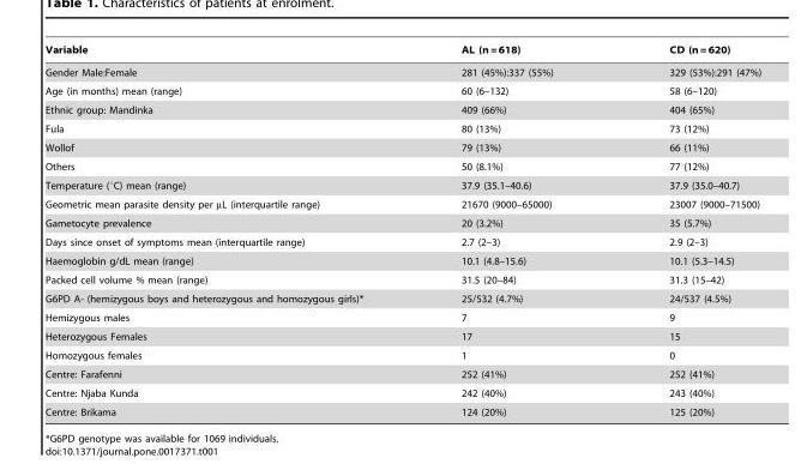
<table><thead><tr><td>Variable</td><td>AL (n = 618)</td><td>CD (n = 620)</td></tr></thead><tbody><tr><td>Gender Male:Female</td><td>281 (45%):337 (55%)</td><td>329 (53%):291 (47%)</td></tr><tr><td>Age (in months) mean (range)</td><td>60 (6–132)</td><td>58 (6–120)</td></tr><tr><td>Ethnic group: Mandinka</td><td>409 (66%)</td><td>404 (65%)</td></tr><tr><td>Fula</td><td>80 (13%)</td><td>73 (12%)</td></tr><tr><td>Wollof</td><td>79 (13%)</td><td>66 (11%)</td></tr><tr><td>Others</td><td>50 (8.1%)</td><td>77 (12%)</td></tr><tr><td>Temperature (°C) mean (range)</td><td>37.9 (35.1–40.6)</td><td>37.9 (35.0–40.7)</td></tr><tr><td>Geometric mean parasite density per µL (interquartile range)</td><td>21670 (9000–65000)</td><td>23007 (9000–71500)</td></tr><tr><td>Gametocyte prevalence</td><td>20 (3.2%)</td><td>35 (5.7%)</td></tr><tr><td>Days since onset of symptoms mean (interquartile range)</td><td>2.7 (2–3)</td><td>2.9 (2–3)</td></tr><tr><td>Haemoglobin g/dL mean (range)</td><td>10.1 (4.8–15.6)</td><td>10.1 (5.3–14.5)</td></tr><tr><td>Packed cell volume % mean (range)</td><td>31.5 (20–84)</td><td>31.3 (15–42)</td></tr><tr><td>G6PD A- (hemizygous boys and heterozygous and homozygous girls)*</td><td>25/532 (4.7%)</td><td>24/537 (4.5%)</td></tr><tr><td>Hemizygous males</td><td>7</td><td>9</td></tr><tr><td>Heterozygous Females</td><td>17</td><td>15</td></tr><tr><td>Homozygous females</td><td>1</td><td>0</td></tr><tr><td>Centre: Farafenni</td><td>252 (41%)</td><td>252 (41%)</td></tr><tr><td>Centre: Njaba Kunda</td><td>242 (40%)</td><td>243 (40%)</td></tr><tr><td>Centre: Brikama</td><td>124 (20%)</td><td>125 (20%)</td></tr></tbody></table>